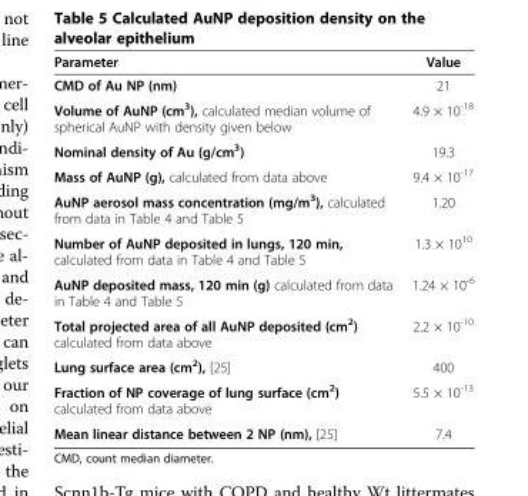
<table><thead><tr><td>Parameter</td><td>Value</td></tr></thead><tbody><tr><td>CMD of Au NP (nm)</td><td>21</td></tr><tr><td>Volume of AuNP (cm<sup>3</sup>), calculated median volume of spherical AuNP with density given below</td><td>4.9 × 10<sup>-18</sup></td></tr><tr><td>Nominal density of Au (g/cm<sup>3</sup>)</td><td>19.3</td></tr><tr><td>Mass of AuNP (g), calculated from data above</td><td>9.4 × 10<sup>-17</sup></td></tr><tr><td>AuNP aerosol mass concentration (mg/m<sup>3</sup>), calculated from data in Table 4 and Table 5</td><td>1.20</td></tr><tr><td>Number of AuNP deposited in lungs, 120 min, calculated from data in Table 4 and Table 5</td><td>1.3 × 10<sup>10</sup></td></tr><tr><td>AuNP deposited mass, 120 min (g) calculated from data in Table 4 and Table 5</td><td>1.24 × 10<sup>-6</sup></td></tr><tr><td>Total projected area of all AuNP deposited (cm<sup>2</sup>) calculated from data above</td><td>2.2 × 10<sup>-10</sup></td></tr><tr><td>Lung surface area (cm<sup>2</sup>), [25]</td><td>400</td></tr><tr><td>Fraction of NP coverage of lung surface (cm<sup>2</sup>) calculated from data above</td><td>5.5 × 10<sup>-13</sup></td></tr><tr><td>Mean linear distance between 2 NP (nm), [25]</td><td>7.4</td></tr></tbody></table>